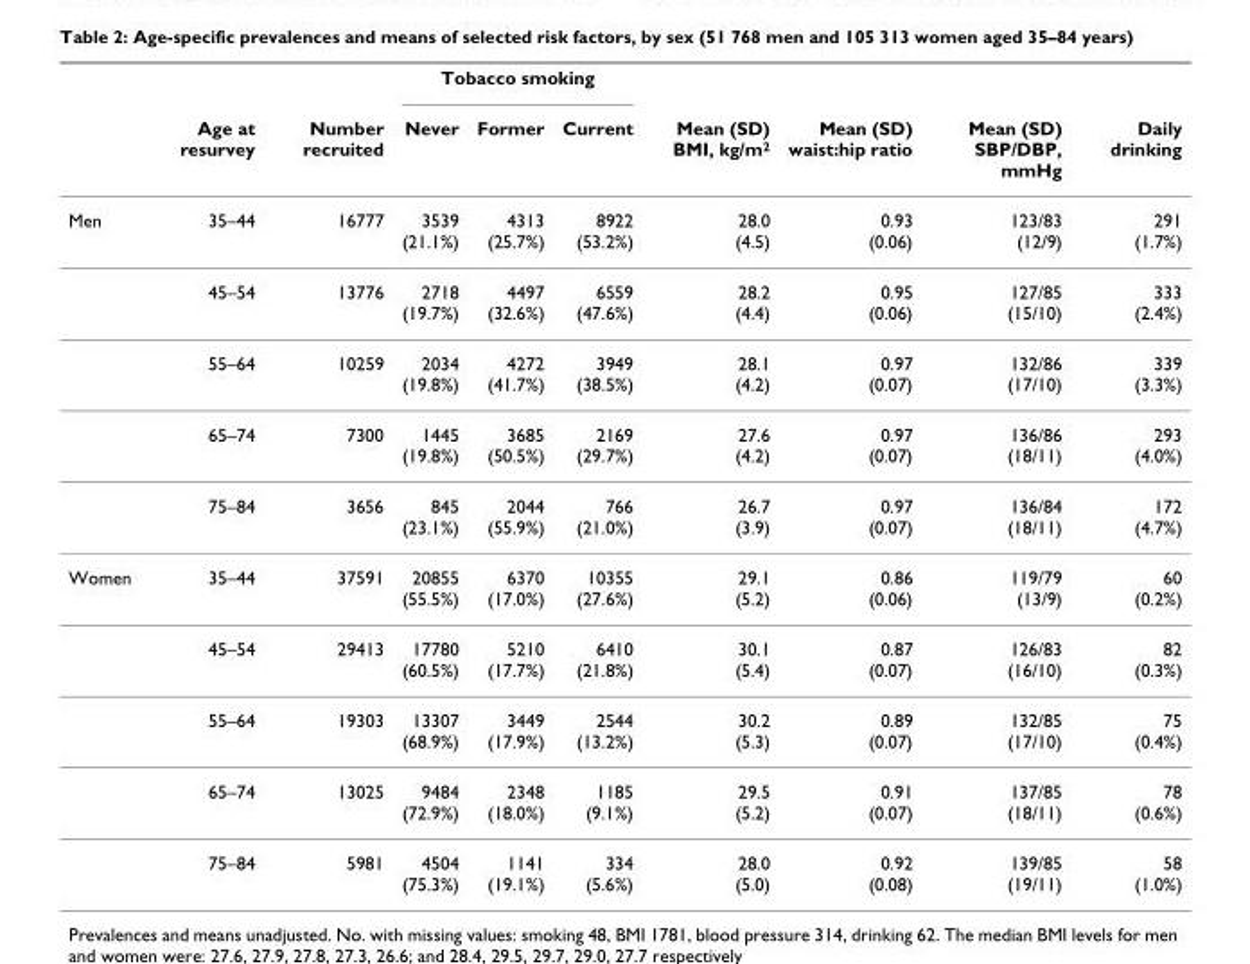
<table><thead><tr><td rowspan="2"></td><td rowspan="2">Age at resurvey</td><td rowspan="2">Number recruited</td><td colspan="3">Tobacco smoking</td><td rowspan="2">Mean (SD) BMI, kg/m<sup>2</sup></td><td rowspan="2">Mean (SD) waist:hip ratio</td><td rowspan="2">Mean (SD) SBP/DBP, mmHg</td><td rowspan="2">Daily drinking</td></tr><tr><td>Never</td><td>Former</td><td>Current</td></tr></thead><tbody><tr><td rowspan="5">Men</td><td>35–44</td><td>16777</td><td>3539 (21.1%)</td><td>4313 (25.7%)</td><td>8922 (53.2%)</td><td>28.0 (4.5)</td><td>0.93 (0.06)</td><td>123/83 (12/9)</td><td>291 (1.7%)</td></tr><tr><td>45–54</td><td>13776</td><td>2718 (19.7%)</td><td>4497 (32.6%)</td><td>6559 (47.6%)</td><td>28.2 (4.4)</td><td>0.95 (0.06)</td><td>127/85 (15/10)</td><td>333 (2.4%)</td></tr><tr><td>55–64</td><td>10259</td><td>2034 (19.8%)</td><td>4272 (41.7%)</td><td>3949 (38.5%)</td><td>28.1 (4.2)</td><td>0.97 (0.07)</td><td>132/86 (17/10)</td><td>339 (3.3%)</td></tr><tr><td>65–74</td><td>7300</td><td>1445 (19.8%)</td><td>3685 (50.5%)</td><td>2169 (29.7%)</td><td>27.6 (4.2)</td><td>0.97 (0.07)</td><td>136/86 (18/11)</td><td>293 (4.0%)</td></tr><tr><td>75–84</td><td>3656</td><td>845 (23.1%)</td><td>2044 (55.9%)</td><td>766 (21.0%)</td><td>26.7 (3.9)</td><td>0.97 (0.07)</td><td>136/84 (18/11)</td><td>172 (4.7%)</td></tr><tr><td rowspan="5">Women</td><td>35–44</td><td>37591</td><td>20855 (55.5%)</td><td>6370 (17.0%)</td><td>10355 (27.6%)</td><td>29.1 (5.2)</td><td>0.86 (0.06)</td><td>119/79 (13/9)</td><td>60 (0.2%)</td></tr><tr><td>45–54</td><td>29413</td><td>17780 (60.5%)</td><td>5210 (17.7%)</td><td>6410 (21.8%)</td><td>30.1 (5.4)</td><td>0.87 (0.07)</td><td>126/83 (16/10)</td><td>82 (0.3%)</td></tr><tr><td>55–64</td><td>19303</td><td>13307 (68.9%)</td><td>3449 (17.9%)</td><td>2544 (13.2%)</td><td>30.2 (5.3)</td><td>0.89 (0.07)</td><td>132/85 (17/10)</td><td>75 (0.4%)</td></tr><tr><td>65–74</td><td>13025</td><td>9484 (72.9%)</td><td>2348 (18.0%)</td><td>1185 (9.1%)</td><td>29.5 (5.2)</td><td>0.91 (0.07)</td><td>137/85 (18/11)</td><td>78 (0.6%)</td></tr><tr><td>75–84</td><td>5981</td><td>4504 (75.3%)</td><td>1141 (19.1%)</td><td>334 (5.6%)</td><td>28.0 (5.0)</td><td>0.92 (0.08)</td><td>139/85 (19/11)</td><td>58 (1.0%)</td></tr></tbody></table>